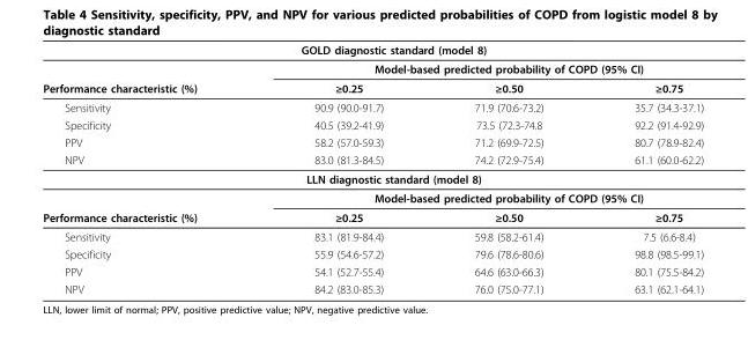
<table><thead><tr><td colspan="4">GOLD diagnostic standard (model 8)</td></tr><tr><td rowspan="2">Performance characteristic (%)</td><td colspan="3">Model-based predicted probability of COPD (95% CI)</td></tr><tr><td>≥0.25</td><td>≥0.50</td><td>≥0.75</td></tr></thead><tbody><tr><td>Sensitivity</td><td>90.9 (90.0-91.7)</td><td>71.9 (70.6-73.2)</td><td>35.7 (34.3-37.1)</td></tr><tr><td>Specificity</td><td>40.5 (39.2-41.9)</td><td>73.5 (72.3-74.8</td><td>92.2 (91.4-92.9)</td></tr><tr><td>PPV</td><td>58.2 (57.0-59.3)</td><td>71.2 (69.9-72.5)</td><td>80.7 (78.9-82.4)</td></tr><tr><td>NPV</td><td>83.0 (81.3-84.5)</td><td>74.2 (72.9-75.4)</td><td>61.1 (60.0-62.2)</td></tr><tr><td colspan="4">LLN diagnostic standard (model 8)</td></tr><tr><td></td><td colspan="3">Model-based predicted probability of COPD (95% CI)</td></tr><tr><td>Performance characteristic (%)</td><td>≥0.25</td><td>≥0.50</td><td>≥0.75</td></tr><tr><td>Sensitivity</td><td>83.1 (81.9-84.4)</td><td>59.8 (58.2-61.4)</td><td>7.5 (6.6-8.4)</td></tr><tr><td>Specificity</td><td>55.9 (54.6-57.2)</td><td>79.6 (78.6-80.6)</td><td>98.8 (98.5-99.1)</td></tr><tr><td>PPV</td><td>54.1 (52.7-55.4)</td><td>64.6 (63.0-66.3)</td><td>80.1 (75.5-84.2)</td></tr><tr><td>NPV</td><td>84.2 (83.0-85.3)</td><td>76.0 (75.0-77.1)</td><td>63.1 (62.1-64.1)</td></tr></tbody></table>